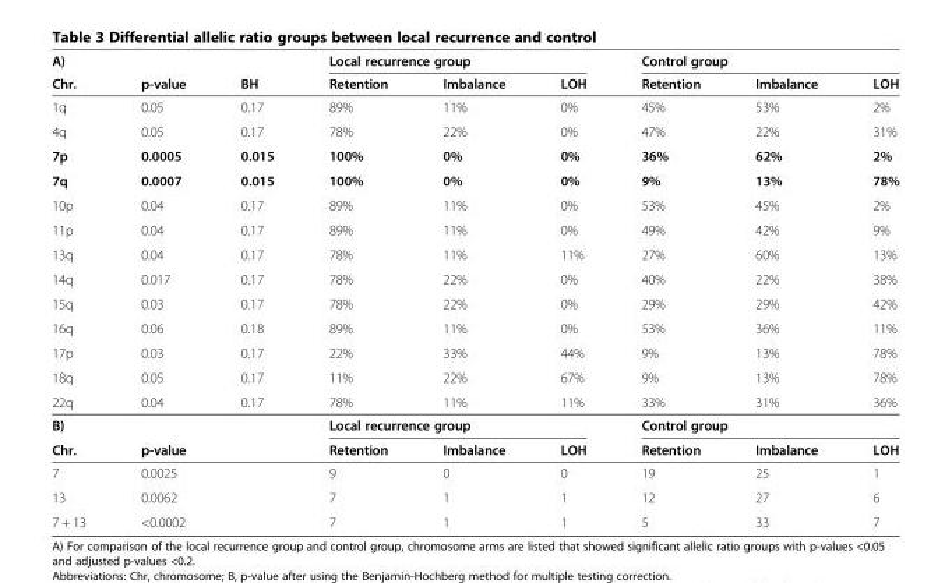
<table><thead><tr><td colspan="3">A)</td><td colspan="3">Local recurrence group</td><td colspan="3">Control group</td></tr><tr><td>Chr.</td><td>p-value</td><td>BH</td><td>Retention</td><td>Imbalance</td><td>LOH</td><td>Retention</td><td>Imbalance</td><td>LOH</td></tr></thead><tbody><tr><td>1q</td><td>0.05</td><td>0.17</td><td>89%</td><td>11%</td><td>0%</td><td>45%</td><td>53%</td><td>2%</td></tr><tr><td>4q</td><td>0.05</td><td>0.17</td><td>78%</td><td>22%</td><td>0%</td><td>47%</td><td>22%</td><td>31%</td></tr><tr><td>7p</td><td>0.0005</td><td>0.015</td><td>100%</td><td>0%</td><td>0%</td><td>36%</td><td>62%</td><td>2%</td></tr><tr><td>7q</td><td>0.0007</td><td>0.015</td><td>100%</td><td>0%</td><td>0%</td><td>9%</td><td>13%</td><td>78%</td></tr><tr><td>10p</td><td>0.04</td><td>0.17</td><td>89%</td><td>11%</td><td>0%</td><td>53%</td><td>45%</td><td>2%</td></tr><tr><td>11p</td><td>0.04</td><td>0.17</td><td>89%</td><td>11%</td><td>0%</td><td>49%</td><td>42%</td><td>9%</td></tr><tr><td>13q</td><td>0.04</td><td>0.17</td><td>78%</td><td>11%</td><td>11%</td><td>27%</td><td>60%</td><td>13%</td></tr><tr><td>14q</td><td>0.017</td><td>0.17</td><td>78%</td><td>22%</td><td>0%</td><td>40%</td><td>22%</td><td>38%</td></tr><tr><td>15q</td><td>0.03</td><td>0.17</td><td>78%</td><td>22%</td><td>0%</td><td>29%</td><td>29%</td><td>42%</td></tr><tr><td>16q</td><td>0.06</td><td>0.18</td><td>89%</td><td>11%</td><td>0%</td><td>53%</td><td>36%</td><td>11%</td></tr><tr><td>17p</td><td>0.03</td><td>0.17</td><td>22%</td><td>33%</td><td>44%</td><td>9%</td><td>13%</td><td>78%</td></tr><tr><td>18q</td><td>0.05</td><td>0.17</td><td>11%</td><td>22%</td><td>67%</td><td>9%</td><td>13%</td><td>78%</td></tr><tr><td>22q</td><td>0.04</td><td>0.17</td><td>78%</td><td>11%</td><td>11%</td><td>33%</td><td>31%</td><td>36%</td></tr><tr><td colspan="3">B)</td><td colspan="3">Local recurrence group</td><td colspan="3">Control group</td></tr><tr><td>Chr.</td><td>p-value</td><td></td><td>Retention</td><td>Imbalance</td><td>LOH</td><td>Retention</td><td>Imbalance</td><td>LOH</td></tr><tr><td>7</td><td>0.0025</td><td></td><td>9</td><td>0</td><td>0</td><td>19</td><td>25</td><td>1</td></tr><tr><td>13</td><td>0.0062</td><td></td><td>7</td><td>1</td><td>1</td><td>12</td><td>27</td><td>6</td></tr><tr><td>7 + 13</td><td>&lt;0.0002</td><td></td><td>7</td><td>1</td><td>1</td><td>5</td><td>33</td><td>7</td></tr></tbody></table>